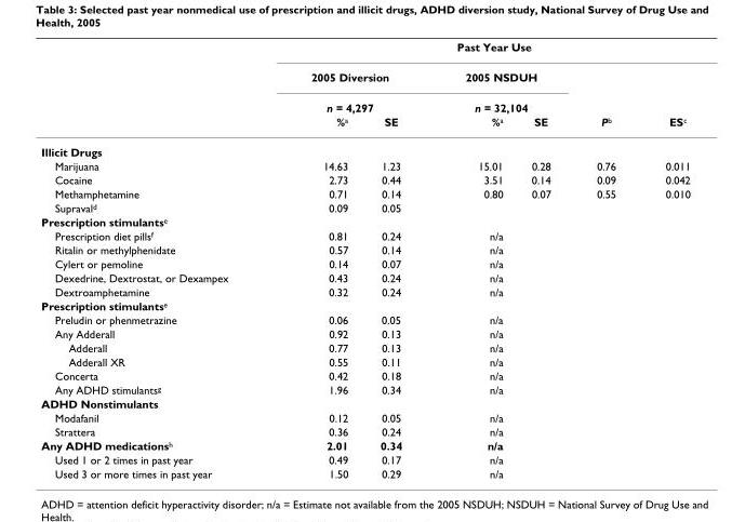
<table><thead><tr><td rowspan="4"></td><td colspan="6">Past Year Use</td></tr><tr><td rowspan="2" colspan="2">2005 Diversion n = 4,297</td><td rowspan="2" colspan="2">2005 NSDUH n = 32,104</td><td rowspan="3">P<sup>b</sup></td><td rowspan="3">ES<sup>c</sup></td></tr><tr></tr><tr><td>%<sup>a</sup></td><td>SE</td><td>%<sup>a</sup></td><td>SE</td></tr></thead><tbody><tr><td colspan="7">Illicit Drugs</td></tr><tr><td>Marijuana</td><td>14.63</td><td>1.23</td><td>15.01</td><td>0.28</td><td>0.76</td><td>0.011</td></tr><tr><td>Cocaine</td><td>2.73</td><td>0.44</td><td>3.51</td><td>0.14</td><td>0.09</td><td>0.042</td></tr><tr><td>Methamphetamine</td><td>0.71</td><td>0.14</td><td>0.80</td><td>0.07</td><td>0.55</td><td>0.010</td></tr><tr><td>Supraval<sup>d</sup></td><td>0.09</td><td>0.05</td><td></td><td></td><td></td><td></td></tr><tr><td colspan="7">Prescription stimulants<sup>e</sup></td></tr><tr><td>Prescription diet pills<sup>f</sup></td><td>0.81</td><td>0.24</td><td>n/a</td><td></td><td></td><td></td></tr><tr><td>Ritalin or methylphenidate</td><td>0.57</td><td>0.14</td><td>n/a</td><td></td><td></td><td></td></tr><tr><td>Cylert or pemoline</td><td>0.14</td><td>0.07</td><td>n/a</td><td></td><td></td><td></td></tr><tr><td>Dexedrine, Dextrostat, or Dexampex</td><td>0.43</td><td>0.24</td><td>n/a</td><td></td><td></td><td></td></tr><tr><td>Dextroamphetamine</td><td>0.32</td><td>0.24</td><td>n/a</td><td></td><td></td><td></td></tr><tr><td colspan="7">Prescription stimulants<sup>e</sup></td></tr><tr><td>Preludin or phenmetrazine</td><td>0.06</td><td>0.05</td><td>n/a</td><td></td><td></td><td></td></tr><tr><td>Any Adderall</td><td>0.92</td><td>0.13</td><td>n/a</td><td></td><td></td><td></td></tr><tr><td>Adderall</td><td>0.77</td><td>0.13</td><td>n/a</td><td></td><td></td><td></td></tr><tr><td>Adderall XR</td><td>0.55</td><td>0.11</td><td>n/a</td><td></td><td></td><td></td></tr><tr><td>Concerta</td><td>0.42</td><td>0.18</td><td>n/a</td><td></td><td></td><td></td></tr><tr><td>Any ADHD stimulants<sup>g</sup></td><td>1.96</td><td>0.34</td><td>n/a</td><td></td><td></td><td></td></tr><tr><td colspan="7">ADHD Nonstimulants</td></tr><tr><td>Modafanil</td><td>0.12</td><td>0.05</td><td>n/a</td><td></td><td></td><td></td></tr><tr><td>Strattera</td><td>0.36</td><td>0.24</td><td>n/a</td><td></td><td></td><td></td></tr><tr><td>Any ADHD medications<sup>h</sup></td><td>2.01</td><td>0.34</td><td>n/a</td><td></td><td></td><td></td></tr><tr><td>Used 1 or 2 times in past year</td><td>0.49</td><td>0.17</td><td>n/a</td><td></td><td></td><td></td></tr><tr><td>Used 3 or more times in past year</td><td>1.50</td><td>0.29</td><td>n/a</td><td></td><td></td><td></td></tr></tbody></table>